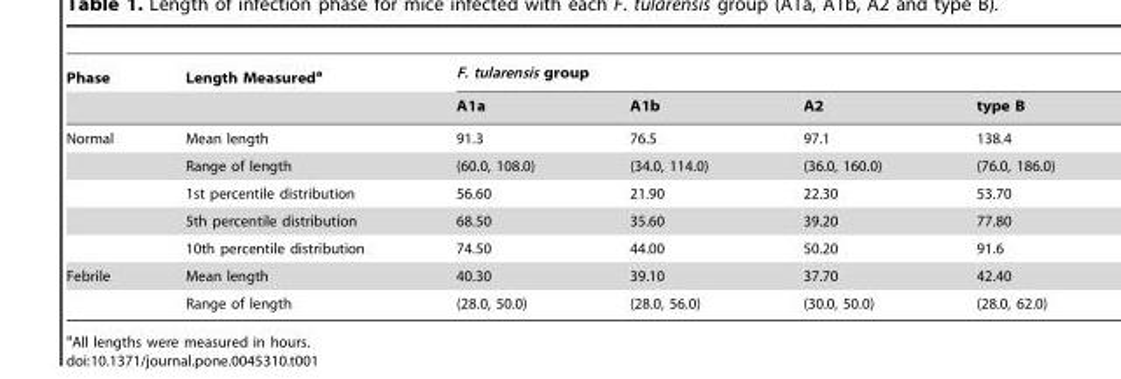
<table><thead><tr><td rowspan="2">Phase</td><td rowspan="2">Length Measured<sup>a</sup></td><td colspan="4">F. tularensis group</td></tr><tr><td>A1a</td><td>A1b</td><td>A2</td><td>type B</td></tr></thead><tbody><tr><td rowspan="5">Normal</td><td>Mean length</td><td>91.3</td><td>76.5</td><td>97.1</td><td>138.4</td></tr><tr><td>Range of length</td><td>(60.0, 108.0)</td><td>(34.0, 114.0)</td><td>(36.0, 160.0)</td><td>(76.0, 186.0)</td></tr><tr><td>1st percentile distribution</td><td>56.60</td><td>21.90</td><td>22.30</td><td>53.70</td></tr><tr><td>5th percentile distribution</td><td>68.50</td><td>35.60</td><td>39.20</td><td>77.80</td></tr><tr><td>10th percentile distribution</td><td>74.50</td><td>44.00</td><td>50.20</td><td>91.6</td></tr><tr><td rowspan="2">Febrile</td><td>Mean length</td><td>40.30</td><td>39.10</td><td>37.70</td><td>42.40</td></tr><tr><td>Range of length</td><td>(28.0, 50.0)</td><td>(28.0, 56.0)</td><td>(30.0, 50.0)</td><td>(28.0, 62.0)</td></tr></tbody></table>